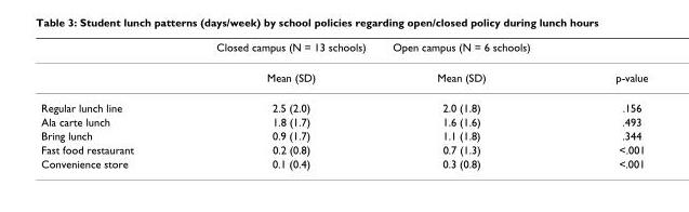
<table><thead><tr><td></td><td>Closed campus (N = 13 schools)</td><td>Open campus (N = 6 schools)</td><td></td></tr></thead><tbody><tr><td></td><td>Mean (SD)</td><td>Mean (SD)</td><td>p-value</td></tr><tr><td>Regular lunch line</td><td>2.5 (2.0)</td><td>2.0 (1.8)</td><td>.156</td></tr><tr><td>Ala carte lunch</td><td>1.8 (1.7)</td><td>1.6 (1.6)</td><td>.493</td></tr><tr><td>Bring lunch</td><td>0.9 (1.7)</td><td>1.1 (1.8)</td><td>.344</td></tr><tr><td>Fast food restaurant</td><td>0.2 (0.8)</td><td>0.7 (1.3)</td><td>&lt;.001</td></tr><tr><td>Convenience store</td><td>0.1 (0.4)</td><td>0.3 (0.8)</td><td>&lt;.001</td></tr></tbody></table>